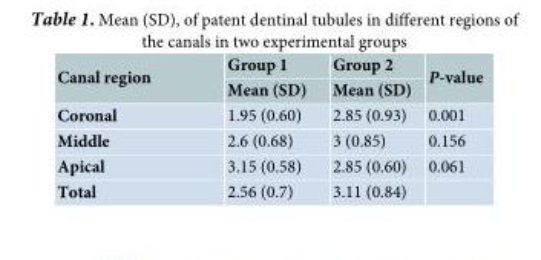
<table><thead><tr><td rowspan="2">Canal region</td><td rowspan="2">Group 1 Mean (SD)</td><td rowspan="2">Group 2 Mean (SD)</td><td rowspan="2">P-value</td></tr><tr></tr></thead><tbody><tr><td>Coronal</td><td>1.95 (0.60)</td><td>2.85 (0.93)</td><td>0.001</td></tr><tr><td>Middle</td><td>2.6 (0.68)</td><td>3 (0.85)</td><td>0.156</td></tr><tr><td>Apical</td><td>3.15 (0.58)</td><td>2.85 (0.60)</td><td>0.061</td></tr><tr><td>Total</td><td>2.56 (0.7)</td><td>3.11 (0.84)</td><td></td></tr></tbody></table>